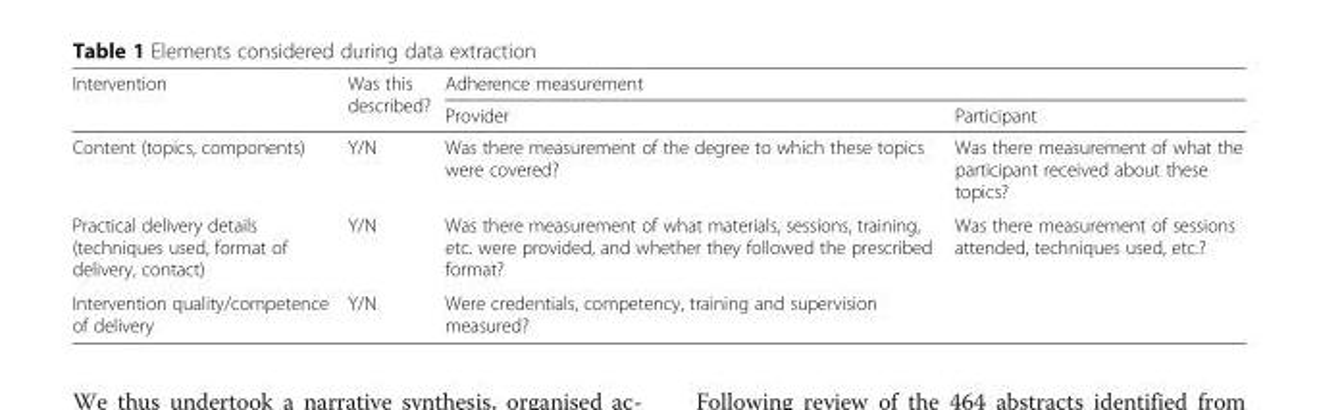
<table><thead><tr><td rowspan="2">Intervention</td><td rowspan="2">Was this described?</td><td colspan="2">Adherence measurement</td></tr><tr><td>Provider</td><td>Participant</td></tr></thead><tbody><tr><td>Content (topics, components)</td><td>Y/N</td><td>Was there measurement of the degree to which these topics were covered?</td><td>Was there measurement of what the participant received about these topics?</td></tr><tr><td>Practical delivery details (techniques used, format of delivery, contact)</td><td>Y/N</td><td>Was there measurement of what materials, sessions, training, etc. were provided, and whether they followed the prescribed format?</td><td>Was there measurement of sessions attended, techniques used, etc.?</td></tr><tr><td>Intervention quality/competence of delivery</td><td>Y/N</td><td>Were credentials, competency, training and supervision measured?</td><td></td></tr></tbody></table>